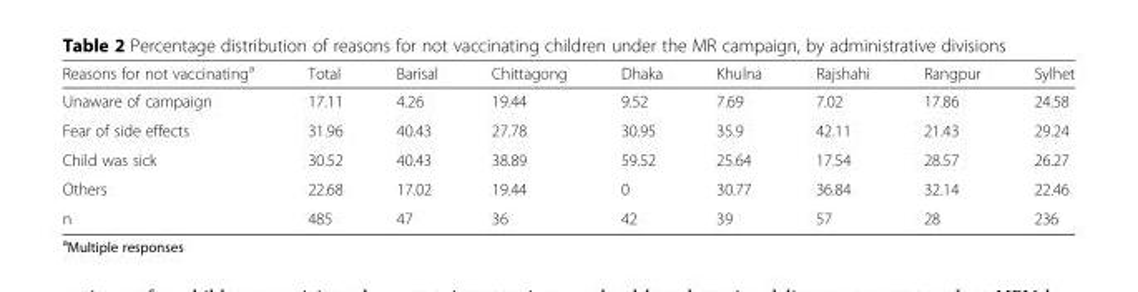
<table><thead><tr><td>Reasons for not vaccinating<sup>a</sup></td><td>Total</td><td>Barisal</td><td>Chittagong</td><td>Dhaka</td><td>Khulna</td><td>Rajshahi</td><td>Rangpur</td><td>Sylhet</td></tr></thead><tbody><tr><td>Unaware of campaign</td><td>17.11</td><td>4.26</td><td>19.44</td><td>9.52</td><td>7.69</td><td>7.02</td><td>17.86</td><td>24.58</td></tr><tr><td>Fear of side effects</td><td>31.96</td><td>40.43</td><td>27.78</td><td>30.95</td><td>35.9</td><td>42.11</td><td>21.43</td><td>29.24</td></tr><tr><td>Child was sick</td><td>30.52</td><td>40.43</td><td>38.89</td><td>59.52</td><td>25.64</td><td>17.54</td><td>28.57</td><td>26.27</td></tr><tr><td>Others</td><td>22.68</td><td>17.02</td><td>19.44</td><td>0</td><td>30.77</td><td>36.84</td><td>32.14</td><td>22.46</td></tr><tr><td>n</td><td>485</td><td>47</td><td>36</td><td>42</td><td>39</td><td>57</td><td>28</td><td>236</td></tr></tbody></table>